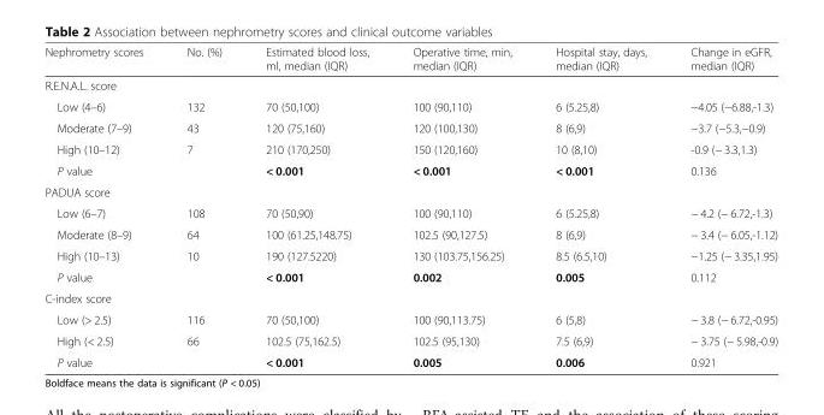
<table><thead><tr><td>Nephrometry scores</td><td>No. (%)</td><td>Estimated blood loss, ml, median (IQR)</td><td>Operative time, min, median (IQR)</td><td>Hospital stay, days, median (IQR)</td><td>Change in eGFR, median (IQR)</td></tr></thead><tbody><tr><td colspan="6">R.E.N.A.L. score</td></tr><tr><td>Low (4–6)</td><td>132</td><td>70 (50,100)</td><td>100 (90,110)</td><td>6 (5.25,8)</td><td>−4.05 (−6.88,-1.3)</td></tr><tr><td>Moderate (7–9)</td><td>43</td><td>120 (75,160)</td><td>120 (100,130)</td><td>8 (6,9)</td><td>−3.7 (−5.3,−0.9)</td></tr><tr><td>High (10–12)</td><td>7</td><td>210 (170,250)</td><td>150 (120,160)</td><td>10 (8,10)</td><td>-0.9 (− 3.3,1.3)</td></tr><tr><td>P value</td><td></td><td>&lt; 0.001</td><td>&lt; 0.001</td><td>&lt; 0.001</td><td>0.136</td></tr><tr><td colspan="6">PADUA score</td></tr><tr><td>Low (6–7)</td><td>108</td><td>70 (50,90)</td><td>100 (90,110)</td><td>6 (5.25,8)</td><td>− 4.2 (− 6.72,-1.3)</td></tr><tr><td>Moderate (8–9)</td><td>64</td><td>100 (61.25,148.75)</td><td>102.5 (90,127.5)</td><td>8 (6,9)</td><td>− 3.4 (− 6.05,-1.12)</td></tr><tr><td>High (10–13)</td><td>10</td><td>190 (127.5220)</td><td>130 (103.75,156.25)</td><td>8.5 (6.5,10)</td><td>−1.25 (− 3.35,1.95)</td></tr><tr><td>P value</td><td></td><td>&lt; 0.001</td><td>0.002</td><td>0.005</td><td>0.112</td></tr><tr><td colspan="6">C-index score</td></tr><tr><td>Low (&gt; 2.5)</td><td>116</td><td>70 (50,100)</td><td>100 (90,113.75)</td><td>6 (5,8)</td><td>− 3.8 (− 6.72,-0.95)</td></tr><tr><td>High (&lt; 2.5)</td><td>66</td><td>102.5 (75,162.5)</td><td>102.5 (95,130)</td><td>7.5 (6,9)</td><td>− 3.75 (− 5.98,-0.9)</td></tr><tr><td>P value</td><td></td><td>&lt; 0.001</td><td>0.005</td><td>0.006</td><td>0.921</td></tr></tbody></table>